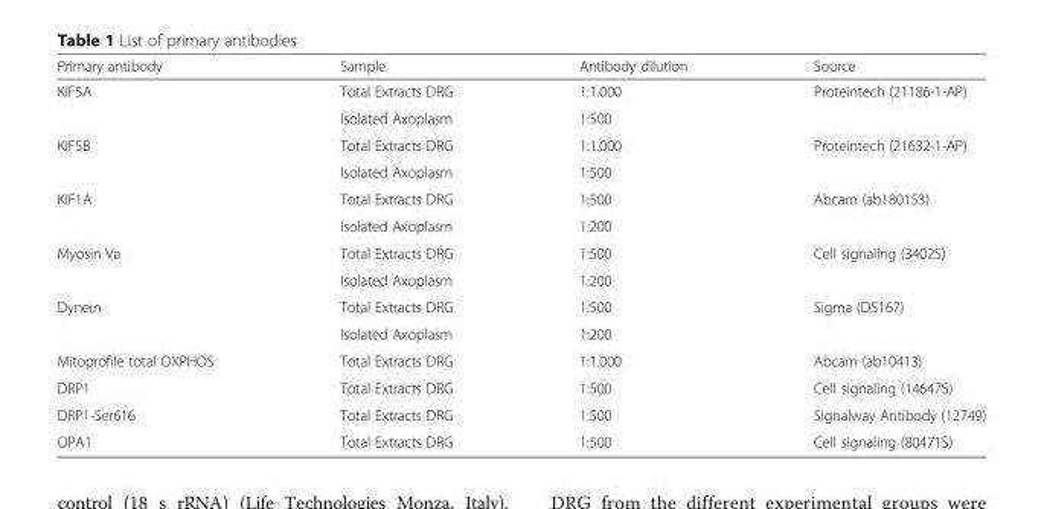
<table><thead><tr><td>Primary antibody</td><td>Sample</td><td>Antibody dilution</td><td>Source</td></tr></thead><tbody><tr><td rowspan="2">KIF5A</td><td>Total Extracts DRG</td><td>1:1.000</td><td rowspan="2">Proteintech (21186-1-AP)</td></tr><tr><td>Isolated Axoplasm</td><td>1:500</td></tr><tr><td rowspan="2">KIF5B</td><td>Total Extracts DRG</td><td>1:1.000</td><td rowspan="2">Proteintech (21632-1-AP)</td></tr><tr><td>Isolated Axoplasm</td><td>1:500</td></tr><tr><td rowspan="2">KIF1A</td><td>Total Extracts DRG</td><td>1:500</td><td rowspan="2">Abcam (ab180153)</td></tr><tr><td>Isolated Axoplasm</td><td>1:200</td></tr><tr><td rowspan="2">Myosin Va</td><td>Total Extracts DRG</td><td>1:500</td><td rowspan="2">Cell signaling (3402S)</td></tr><tr><td>Isolated Axoplasm</td><td>1:200</td></tr><tr><td rowspan="2">Dynein</td><td>Total Extracts DRG</td><td>1:500</td><td rowspan="2">Sigma (D5167)</td></tr><tr><td>Isolated Axoplasm</td><td>1:200</td></tr><tr><td>Mitoprofile total OXPHOS</td><td>Total Extracts DRG</td><td>1:1.000</td><td>Abcam (ab10413)</td></tr><tr><td>DRP1</td><td>Total Extracts DRG</td><td>1:500</td><td>Cell signaling (14647S)</td></tr><tr><td>DRP1-Ser616</td><td>Total Extracts DRG</td><td>1:500</td><td>Signalway Antibody (12749)</td></tr><tr><td>OPA1</td><td>Total Extracts DRG</td><td>1:500</td><td>Cell signaling (80471S)</td></tr></tbody></table>